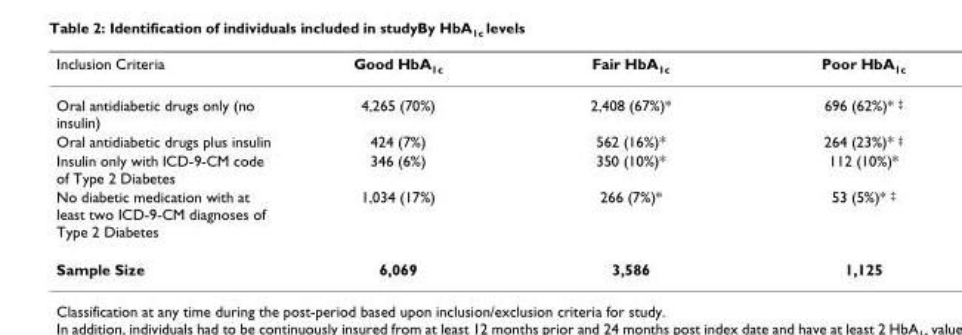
<table><thead><tr><td>Inclusion Criteria</td><td>Good HbA<sub>1c</sub></td><td>Fair HbA<sub>1c</sub></td><td>Poor HbA<sub>1c</sub></td></tr></thead><tbody><tr><td>Oral antidiabetic drugs only (no insulin)</td><td>4,265 (70%)</td><td>2,408 (67%)*</td><td>696 (62%)* <sup>‡</sup></td></tr><tr><td>Oral antidiabetic drugs plus insulin</td><td>424 (7%)</td><td>562 (16%)*</td><td>264 (23%)* <sup>‡</sup></td></tr><tr><td>Insulin only with ICD-9-CM code of Type 2 Diabetes</td><td>346 (6%)</td><td>350 (10%)*</td><td>112 (10%)*</td></tr><tr><td>No diabetic medication with at least two ICD-9-CM diagnoses of Type 2 Diabetes</td><td>1,034 (17%)</td><td>266 (7%)*</td><td>53 (5%)* <sup>‡</sup></td></tr><tr><td>Sample Size</td><td>6,069</td><td>3,586</td><td>1,125</td></tr></tbody></table>